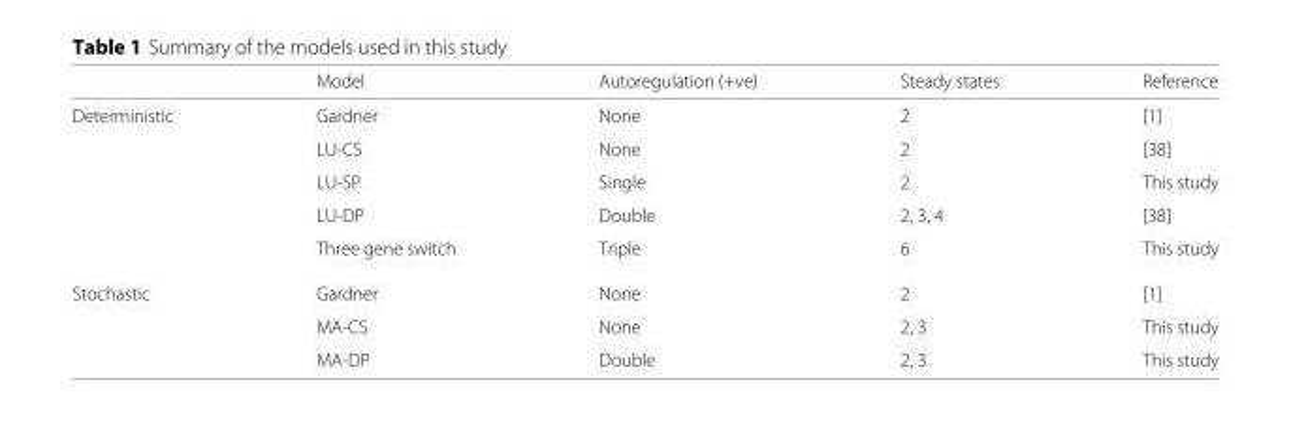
<table><thead><tr><td></td><td>Model</td><td>Autoregulation (+ve)</td><td>Steady states</td><td>Reference</td></tr></thead><tbody><tr><td rowspan="5">Deterministic</td><td>Gardner</td><td>None</td><td>2</td><td>[1]</td></tr><tr><td>LU-CS</td><td>None</td><td>2</td><td>[38]</td></tr><tr><td>LU-SP</td><td>Single</td><td>2</td><td>This study</td></tr><tr><td>LU-DP</td><td>Double</td><td>2, 3, 4</td><td>[38]</td></tr><tr><td>Three gene switch</td><td>Triple</td><td>6</td><td>This study</td></tr><tr><td rowspan="3">Stochastic</td><td>Gardner</td><td>None</td><td>2</td><td>[1]</td></tr><tr><td>MA-CS</td><td>None</td><td>2, 3</td><td>This study</td></tr><tr><td>MA-DP</td><td>Double</td><td>2, 3</td><td>This study</td></tr></tbody></table>